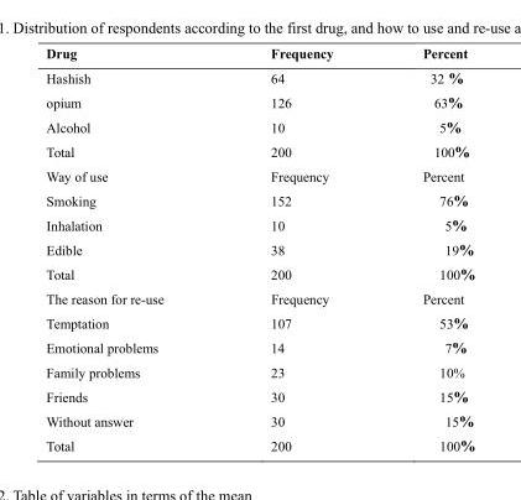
<table><thead><tr><td>Drug</td><td>Frequency</td><td>Percent</td></tr></thead><tbody><tr><td>Hashish</td><td>64</td><td>32 %</td></tr><tr><td>opium</td><td>126</td><td>63%</td></tr><tr><td>Alcohol</td><td>10</td><td>5%</td></tr><tr><td>Total</td><td>200</td><td>100%</td></tr><tr><td>Way of use</td><td>Frequency</td><td>Percent</td></tr><tr><td>Smoking</td><td>152</td><td>76%</td></tr><tr><td>Inhalation</td><td>10</td><td>5%</td></tr><tr><td>Edible</td><td>38</td><td>19%</td></tr><tr><td>Total</td><td>200</td><td>100%</td></tr><tr><td>The reason for re-use</td><td>Frequency</td><td>Percent</td></tr><tr><td>Temptation</td><td>107</td><td>53%</td></tr><tr><td>Emotional problems</td><td>14</td><td>7%</td></tr><tr><td>Family problems</td><td>23</td><td>10%</td></tr><tr><td>Friends</td><td>30</td><td>15%</td></tr><tr><td>Without answer</td><td>30</td><td>15%</td></tr><tr><td>Total</td><td>200</td><td>100%</td></tr></tbody></table>